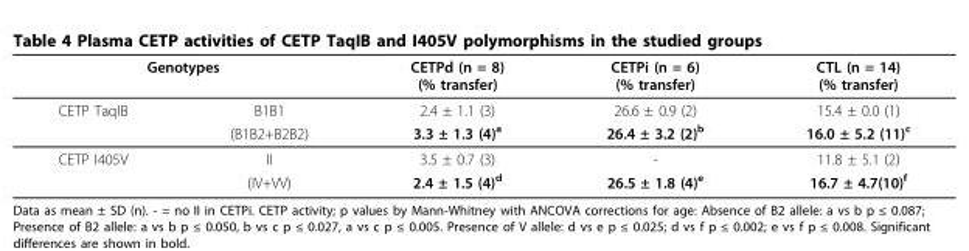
<table><thead><tr><td colspan="2">Genotypes</td><td rowspan="2">CETPd (n = 8) (% transfer) 2.4 ± 1.1 (3)</td><td rowspan="2">CETPi (n = 6) (% transfer) 26.6 ± 0.9 (2)</td><td rowspan="2">CTL (n = 14) (% transfer) 15.4 ± 0.0 (1)</td></tr><tr><td>CETP TaqIB</td><td>B1B1</td></tr></thead><tbody><tr><td></td><td>(B1B2+B2B2)</td><td>3.3 ± 1.3 (4)a</td><td>26.4 ± 3.2 (2)b</td><td>16.0 ± 5.2 (11)c</td></tr><tr><td rowspan="2">CETP I405V</td><td>II</td><td>3.5 ± 0.7 (3)</td><td>-</td><td>11.8 ± 5.1 (2)</td></tr><tr><td>(IV+VV)</td><td>2.4 ± 1.5 (4)d</td><td>26.5 ± 1.8 (4)e</td><td>16.7 ± 4.7(10)f</td></tr></tbody></table>